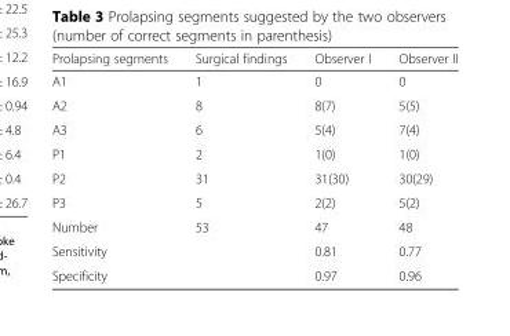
<table><thead><tr><td>Prolapsing segments</td><td>Surgical findings</td><td>Observer I</td><td>Observer II</td></tr></thead><tbody><tr><td>A1</td><td>1</td><td>0</td><td>0</td></tr><tr><td>A2</td><td>8</td><td>8(7)</td><td>5(5)</td></tr><tr><td>A3</td><td>6</td><td>5(4)</td><td>7(4)</td></tr><tr><td>P1</td><td>2</td><td>1(0)</td><td>1(0)</td></tr><tr><td>P2</td><td>31</td><td>31(30)</td><td>30(29)</td></tr><tr><td>P3</td><td>5</td><td>2(2)</td><td>5(2)</td></tr><tr><td>Number</td><td>53</td><td>47</td><td>48</td></tr><tr><td>Sensitivity</td><td></td><td>0.81</td><td>0.77</td></tr><tr><td>Specificity</td><td></td><td>0.97</td><td>0.96</td></tr></tbody></table>